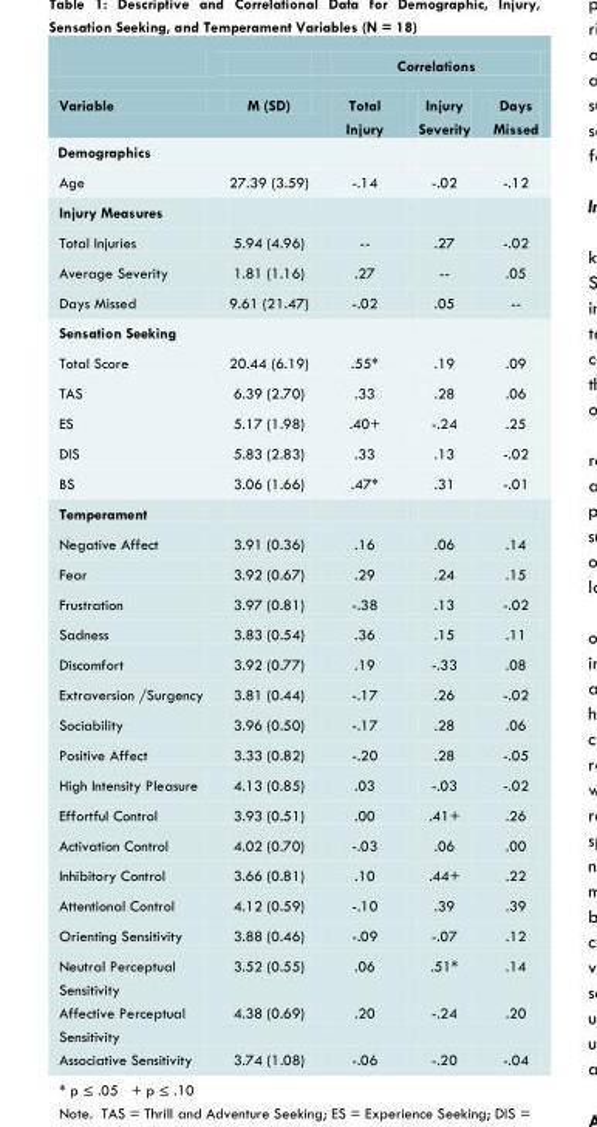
<table><thead><tr><td rowspan="2">Variable</td><td rowspan="2">M (SD)</td><td colspan="3">Correlations</td></tr><tr><td>Total Injury</td><td>Injury Severity</td><td>Days Missed</td></tr></thead><tbody><tr><td colspan="5">Demographics</td></tr><tr><td>Age</td><td>27.39 (3.59)</td><td>-.14</td><td>-.02</td><td>-.12</td></tr><tr><td colspan="5">Injury Measures</td></tr><tr><td>Total Injuries</td><td>5.94 (4.96)</td><td>--</td><td>.27</td><td>-.02</td></tr><tr><td>Average Severity</td><td>1.81 (1.16)</td><td>.27</td><td>--</td><td>.05</td></tr><tr><td>Days Missed</td><td>9.61 (21.47)</td><td>-.02</td><td>.05</td><td>--</td></tr><tr><td colspan="5">Sensation Seeking</td></tr><tr><td>Total Score</td><td>20.44 (6.19)</td><td>.55*</td><td>.19</td><td>.09</td></tr><tr><td>TAS</td><td>6.39 (2.70)</td><td>.33</td><td>.28</td><td>.06</td></tr><tr><td>ES</td><td>5.17 (1.98)</td><td>.40+</td><td>-.24</td><td>.25</td></tr><tr><td>DIS</td><td>5.83 (2.83)</td><td>.33</td><td>.13</td><td>-.02</td></tr><tr><td>BS</td><td>3.06 (1.66)</td><td>.47*</td><td>.31</td><td>-.01</td></tr><tr><td colspan="5">Temperament</td></tr><tr><td>Negative Affect</td><td>3.91 (0.36)</td><td>.16</td><td>.06</td><td>.14</td></tr><tr><td>Fear</td><td>3.92 (0.67)</td><td>.29</td><td>.24</td><td>.15</td></tr><tr><td>Frustration</td><td>3.97 (0.81)</td><td>-.38</td><td>.13</td><td>-.02</td></tr><tr><td>Sadness</td><td>3.83 (0.54)</td><td>.36</td><td>.15</td><td>.11</td></tr><tr><td>Discomfort</td><td>3.92 (0.77)</td><td>.19</td><td>-.33</td><td>.08</td></tr><tr><td>Extraversion /Surgency</td><td>3.81 (0.44)</td><td>-.17</td><td>.26</td><td>-.02</td></tr><tr><td>Sociability</td><td>3.96 (0.50)</td><td>-.17</td><td>.28</td><td>.06</td></tr><tr><td>Positive Affect</td><td>3.33 (0.82)</td><td>-.20</td><td>.28</td><td>-.05</td></tr><tr><td>High Intensity Pleasure</td><td>4.13 (0.85)</td><td>.03</td><td>-.03</td><td>-.02</td></tr><tr><td>Effortful Control</td><td>3.93 (0.51)</td><td>.00</td><td>.41+</td><td>.26</td></tr><tr><td>Activation Control</td><td>4.02 (0.70)</td><td>-.03</td><td>.06</td><td>.00</td></tr><tr><td>Inhibitory Control</td><td>3.66 (0.81)</td><td>.10</td><td>.44+</td><td>.22</td></tr><tr><td>Attentional Control</td><td>4.12 (0.59)</td><td>-.10</td><td>.39</td><td>.39</td></tr><tr><td>Orienting Sensitivity</td><td>3.88 (0.46)</td><td>-.09</td><td>-.07</td><td>.12</td></tr><tr><td>Neutral Perceptual Sensitivity</td><td>3.52 (0.55)</td><td>.06</td><td>.51*</td><td>.14</td></tr><tr><td>Affective Perceptual Sensitivity</td><td>4.38 (0.69)</td><td>.20</td><td>-.24</td><td>.20</td></tr><tr><td>Associative Sensitivity</td><td>3.74 (1.08)</td><td>-.06</td><td>-.20</td><td>-.04</td></tr></tbody></table>